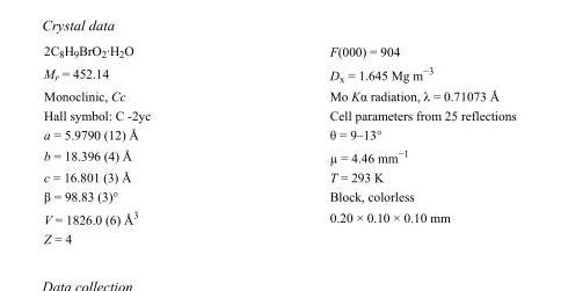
<table><tbody><tr><td>2C<sub>8</sub>H<sub>9</sub>BrO<sub>2</sub>·H<sub>2</sub>O</td><td>F(000) = 904</td></tr><tr><td>M<sub>r</sub> = 452.14</td><td>D<sub>x</sub> = 1.645 Mg m<sup>−3</sup></td></tr><tr><td>Monoclinic, Cc</td><td>Mo Kα radiation, λ = 0.71073 Å</td></tr><tr><td>Hall symbol: C -2yc</td><td>Cell parameters from 25 reflections</td></tr><tr><td>a = 5.9790 (12) Å</td><td>θ = 9–13°</td></tr><tr><td>b = 18.396 (4) Å</td><td>µ = 4.46 mm<sup>−1</sup></td></tr><tr><td>c = 16.801 (3) Å</td><td>T = 293 K</td></tr><tr><td>β = 98.83 (3)°</td><td>Block, colorless</td></tr><tr><td>V = 1826.0 (6) Å<sup>3</sup></td><td>0.20 × 0.10 × 0.10 mm</td></tr><tr><td>Z = 4</td><td></td></tr></tbody></table>